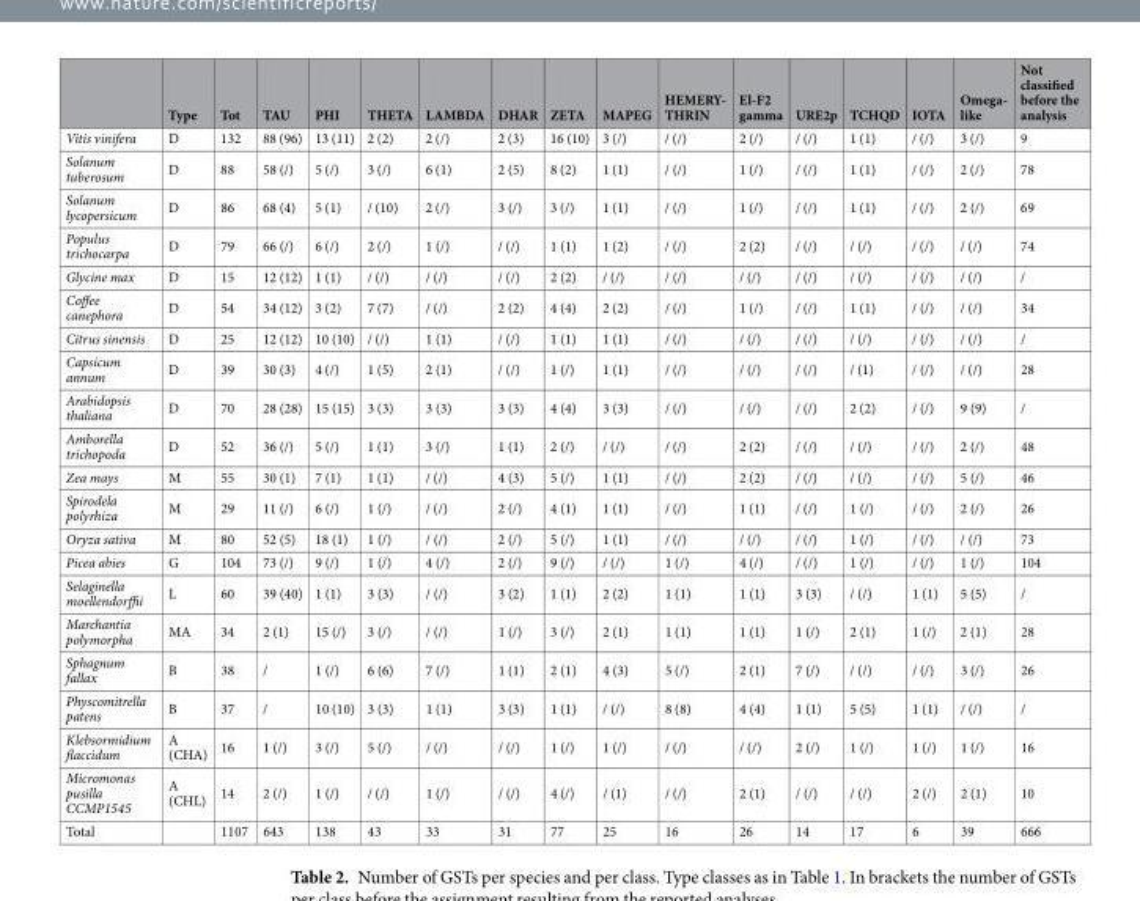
<table><thead><tr><td></td><td>Type</td><td>Tot</td><td>TAU</td><td>PHI</td><td>THETA</td><td>LAMBDA</td><td>DHAR</td><td>ZETA</td><td>MAPEG</td><td>HEMERY- THRIN</td><td>El-F2 gamma</td><td>URE2p</td><td>TCHQD</td><td>IOTA</td><td>Omega- like</td><td>Not classified before the analysis</td></tr></thead><tbody><tr><td>Vitis vinifera</td><td>D</td><td>132</td><td>88 (96)</td><td>13 (11)</td><td>2 (2)</td><td>2 (/)</td><td>2 (3)</td><td>16 (10)</td><td>3 (/)</td><td>/ (/)</td><td>2 (/)</td><td>/ (/)</td><td>1 (1)</td><td>/ (/)</td><td>3 (/)</td><td>9</td></tr><tr><td>Solanum tuberosum</td><td>D</td><td>88</td><td>58 (/)</td><td>5 (/)</td><td>3 (/)</td><td>6 (1)</td><td>2 (5)</td><td>8 (2)</td><td>1 (1)</td><td>/ (/)</td><td>1 (/)</td><td>/ (/)</td><td>1 (1)</td><td>/ (/)</td><td>2 (/)</td><td>78</td></tr><tr><td>Solanum lycopersicum</td><td>D</td><td>86</td><td>68 (4)</td><td>5 (1)</td><td>/ (10)</td><td>2 (/)</td><td>3 (/)</td><td>3 (/)</td><td>1 (1)</td><td>/ (/)</td><td>1 (/)</td><td>/ (/)</td><td>1 (1)</td><td>/ (/)</td><td>2 (/)</td><td>69</td></tr><tr><td>Populus trichocarpa</td><td>D</td><td>79</td><td>66 (/)</td><td>6 (/)</td><td>2 (/)</td><td>1 (/)</td><td>/ (/)</td><td>1 (1)</td><td>1 (2)</td><td>/ (/)</td><td>2 (2)</td><td>/ (/)</td><td>/ (/)</td><td>/ (/)</td><td>/ (/)</td><td>74</td></tr><tr><td>Glycine max</td><td>D</td><td>15</td><td>12 (12)</td><td>1 (1)</td><td>/ (/)</td><td>/ (/)</td><td>/ (/)</td><td>2 (2)</td><td>/ (/)</td><td>/ (/)</td><td>/ (/)</td><td>/ (/)</td><td>/ (/)</td><td>/ (/)</td><td>/ (/)</td><td>/</td></tr><tr><td>Coffee canephora</td><td>D</td><td>54</td><td>34 (12)</td><td>3 (2)</td><td>7 (7)</td><td>/ (/)</td><td>2 (2)</td><td>4 (4)</td><td>2 (2)</td><td>/ (/)</td><td>1 (/)</td><td>/ (/)</td><td>1 (1)</td><td>/ (/)</td><td>/ (/)</td><td>34</td></tr><tr><td>Citrus sinensis</td><td>D</td><td>25</td><td>12 (12)</td><td>10 (10)</td><td>/ (/)</td><td>1 (1)</td><td>/ (/)</td><td>1 (1)</td><td>1 (1)</td><td>/ (/)</td><td>/ (/)</td><td>/ (/)</td><td>/ (/)</td><td>/ (/)</td><td>/ (/)</td><td>/</td></tr><tr><td>Capsicum annum</td><td>D</td><td>39</td><td>30 (3)</td><td>4 (/)</td><td>1 (5)</td><td>2 (1)</td><td>/ (/)</td><td>1 (/)</td><td>1 (1)</td><td>/ (/)</td><td>/ (/)</td><td>/ (/)</td><td>/ (1)</td><td>/ (/)</td><td>/ (/)</td><td>28</td></tr><tr><td>Arabidopsis thaliana</td><td>D</td><td>70</td><td>28 (28)</td><td>15 (15)</td><td>3 (3)</td><td>3 (3)</td><td>3 (3)</td><td>4 (4)</td><td>3 (3)</td><td>/ (/)</td><td>/ (/)</td><td>/ (/)</td><td>2 (2)</td><td>/ (/)</td><td>9 (9)</td><td>/</td></tr><tr><td>Amborella trichopoda</td><td>D</td><td>52</td><td>36 (/)</td><td>5 (/)</td><td>1 (1)</td><td>3 (/)</td><td>1 (1)</td><td>2 (/)</td><td>/ (/)</td><td>/ (/)</td><td>2 (2)</td><td>/ (/)</td><td>/ (/)</td><td>/ (/)</td><td>2 (/)</td><td>48</td></tr><tr><td>Zea mays</td><td>M</td><td>55</td><td>30 (1)</td><td>7 (1)</td><td>1 (1)</td><td>/ (/)</td><td>4 (3)</td><td>5 (/)</td><td>1 (1)</td><td>/ (/)</td><td>2 (2)</td><td>/ (/)</td><td>/ (/)</td><td>/ (/)</td><td>5 (/)</td><td>46</td></tr><tr><td>Spirodela polyrhiza</td><td>M</td><td>29</td><td>11 (/)</td><td>6 (/)</td><td>1 (/)</td><td>/ (/)</td><td>2 (/)</td><td>4 (1)</td><td>1 (1)</td><td>/ (/)</td><td>1 (1)</td><td>/ (/)</td><td>1 (/)</td><td>/ (/)</td><td>2 (/)</td><td>26</td></tr><tr><td>Oryza sativa</td><td>M</td><td>80</td><td>52 (5)</td><td>18 (1)</td><td>1 (/)</td><td>/ (/)</td><td>2 (/)</td><td>5 (/)</td><td>1 (1)</td><td>/ (/)</td><td>/ (/)</td><td>/ (/)</td><td>1 (/)</td><td>/ (/)</td><td>/ (/)</td><td>73</td></tr><tr><td>Picea abies</td><td>G</td><td>104</td><td>73 (/)</td><td>9 (/)</td><td>1 (/)</td><td>4 (/)</td><td>2 (/)</td><td>9 (/)</td><td>/ (/)</td><td>1 (/)</td><td>4 (/)</td><td>/ (/)</td><td>1 (/)</td><td>/ (/)</td><td>1 (/)</td><td>104</td></tr><tr><td>Selaginella moellendorffii</td><td>L</td><td>60</td><td>39 (40)</td><td>1 (1)</td><td>3 (3)</td><td>/ (/)</td><td>3 (2)</td><td>1 (1)</td><td>2 (2)</td><td>1 (1)</td><td>1 (1)</td><td>3 (3)</td><td>/ (/)</td><td>1 (1)</td><td>5 (5)</td><td>/</td></tr><tr><td>Marchantia polymorpha</td><td>MA</td><td>34</td><td>2 (1)</td><td>15 (/)</td><td>3 (/)</td><td>/ (/)</td><td>1 (/)</td><td>3 (/)</td><td>2 (1)</td><td>1 (1)</td><td>1 (1)</td><td>1 (/)</td><td>2 (1)</td><td>1 (/)</td><td>2 (1)</td><td>28</td></tr><tr><td>Sphagnum fallax</td><td>B</td><td>38</td><td>/</td><td>1 (/)</td><td>6 (6)</td><td>7 (/)</td><td>1 (1)</td><td>2 (1)</td><td>4 (3)</td><td>5 (/)</td><td>2 (1)</td><td>7 (/)</td><td>/ (/)</td><td>/ (/)</td><td>3 (/)</td><td>26</td></tr><tr><td>Physcomitrella patens</td><td>B</td><td>37</td><td>/</td><td>10 (10)</td><td>3 (3)</td><td>1 (1)</td><td>3 (3)</td><td>1 (1)</td><td>/ (/)</td><td>8 (8)</td><td>4 (4)</td><td>1 (1)</td><td>5 (5)</td><td>1 (1)</td><td>/ (/)</td><td>/</td></tr><tr><td>Klebsormidium flaccidum</td><td>A (CHA)</td><td>16</td><td>1 (/)</td><td>3 (/)</td><td>5 (/)</td><td>/ (/)</td><td>/ (/)</td><td>1 (/)</td><td>1 (/)</td><td>/ (/)</td><td>/ (/)</td><td>2 (/)</td><td>1 (/)</td><td>1 (/)</td><td>1 (/)</td><td>16</td></tr><tr><td>Micromonas pusilla CCMP1545</td><td>A (CHL)</td><td>14</td><td>2 (/)</td><td>1 (/)</td><td>/ (/)</td><td>1 (/)</td><td>/ (/)</td><td>4 (/)</td><td>/ (1)</td><td>/ (/)</td><td>2 (1)</td><td>/ (/)</td><td>/ (/)</td><td>2 (/)</td><td>2 (1)</td><td>10</td></tr><tr><td>Total</td><td></td><td>1107</td><td>643</td><td>138</td><td>43</td><td>33</td><td>31</td><td>77</td><td>25</td><td>16</td><td>26</td><td>14</td><td>17</td><td>6</td><td>39</td><td>666</td></tr></tbody></table>